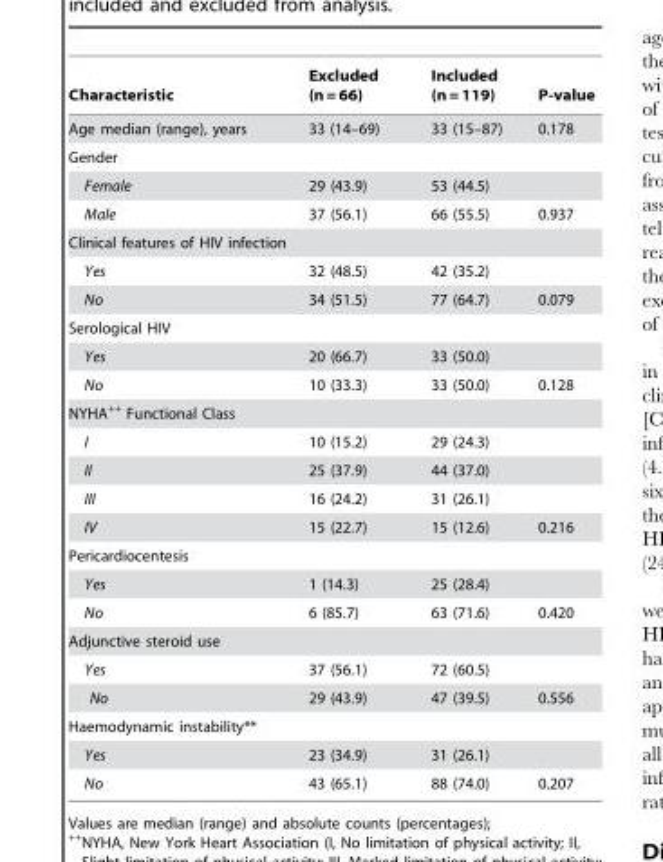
<table><thead><tr><td>Characteristic</td><td>Excluded (n = 66)</td><td>Included (n = 119)</td><td>P-value</td></tr></thead><tbody><tr><td>Age median (range), years</td><td>33 (14–69)</td><td>33 (15–87)</td><td>0.178</td></tr><tr><td colspan="4">Gender</td></tr><tr><td>Female</td><td>29 (43.9)</td><td>53 (44.5)</td><td></td></tr><tr><td>Male</td><td>37 (56.1)</td><td>66 (55.5)</td><td>0.937</td></tr><tr><td colspan="4">Clinical features of HIV infection</td></tr><tr><td>Yes</td><td>32 (48.5)</td><td>42 (35.2)</td><td></td></tr><tr><td>No</td><td>34 (51.5)</td><td>77 (64.7)</td><td>0.079</td></tr><tr><td colspan="4">Serological HIV</td></tr><tr><td>Yes</td><td>20 (66.7)</td><td>33 (50.0)</td><td></td></tr><tr><td>No</td><td>10 (33.3)</td><td>33 (50.0)</td><td>0.128</td></tr><tr><td colspan="4">NYHA++ Functional Class</td></tr><tr><td>I</td><td>10 (15.2)</td><td>29 (24.3)</td><td></td></tr><tr><td>II</td><td>25 (37.9)</td><td>44 (37.0)</td><td></td></tr><tr><td>III</td><td>16 (24.2)</td><td>31 (26.1)</td><td></td></tr><tr><td>IV</td><td>15 (22.7)</td><td>15 (12.6)</td><td>0.216</td></tr><tr><td colspan="4">Pericardiocentesis</td></tr><tr><td>Yes</td><td>1 (14.3)</td><td>25 (28.4)</td><td></td></tr><tr><td>No</td><td>6 (85.7)</td><td>63 (71.6)</td><td>0.420</td></tr><tr><td colspan="4">Adjunctive steroid use</td></tr><tr><td>Yes</td><td>37 (56.1)</td><td>72 (60.5)</td><td></td></tr><tr><td>No</td><td>29 (43.9)</td><td>47 (39.5)</td><td>0.556</td></tr><tr><td colspan="4">Haemodynamic instability**</td></tr><tr><td>Yes</td><td>23 (34.9)</td><td>31 (26.1)</td><td></td></tr><tr><td>No</td><td>43 (65.1)</td><td>88 (74.0)</td><td>0.207</td></tr></tbody></table>